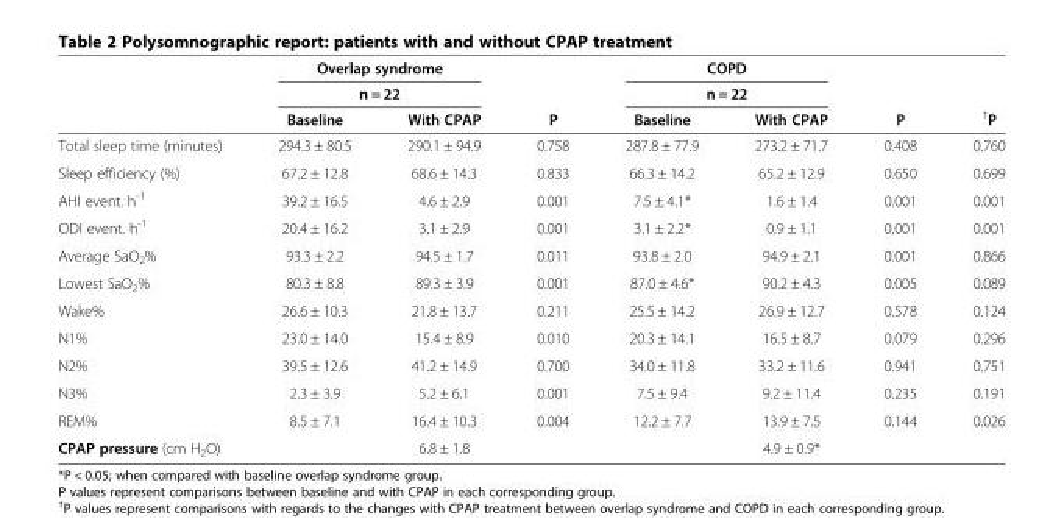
<table><thead><tr><td rowspan="3"></td><td rowspan="2" colspan="2">Overlap syndrome n = 22</td><td rowspan="3">P</td><td rowspan="2" colspan="2">COPD n = 22</td><td rowspan="3">P</td><td rowspan="3"><sup>†</sup>P</td></tr><tr></tr><tr><td>Baseline</td><td>With CPAP</td><td>Baseline</td><td>With CPAP</td></tr></thead><tbody><tr><td>Total sleep time (minutes)</td><td>294.3 ± 80.5</td><td>290.1 ± 94.9</td><td>0.758</td><td>287.8 ± 77.9</td><td>273.2 ± 71.7</td><td>0.408</td><td>0.760</td></tr><tr><td>Sleep efficiency (%)</td><td>67.2 ± 12.8</td><td>68.6 ± 14.3</td><td>0.833</td><td>66.3 ± 14.2</td><td>65.2 ± 12.9</td><td>0.650</td><td>0.699</td></tr><tr><td>AHI event. h<sup>-1</sup></td><td>39.2 ± 16.5</td><td>4.6 ± 2.9</td><td>0.001</td><td>7.5 ± 4.1*</td><td>1.6 ± 1.4</td><td>0.001</td><td>0.001</td></tr><tr><td>ODI event. h<sup>-1</sup></td><td>20.4 ± 16.2</td><td>3.1 ± 2.9</td><td>0.001</td><td>3.1 ± 2.2*</td><td>0.9 ± 1.1</td><td>0.001</td><td>0.001</td></tr><tr><td>Average SaO<sub>2</sub>%</td><td>93.3 ± 2.2</td><td>94.5 ± 1.7</td><td>0.011</td><td>93.8 ± 2.0</td><td>94.9 ± 2.1</td><td>0.001</td><td>0.866</td></tr><tr><td>Lowest SaO<sub>2</sub>%</td><td>80.3 ± 8.8</td><td>89.3 ± 3.9</td><td>0.001</td><td>87.0 ± 4.6*</td><td>90.2 ± 4.3</td><td>0.005</td><td>0.089</td></tr><tr><td>Wake%</td><td>26.6 ± 10.3</td><td>21.8 ± 13.7</td><td>0.211</td><td>25.5 ± 14.2</td><td>26.9 ± 12.7</td><td>0.578</td><td>0.124</td></tr><tr><td>N1%</td><td>23.0 ± 14.0</td><td>15.4 ± 8.9</td><td>0.010</td><td>20.3 ± 14.1</td><td>16.5 ± 8.7</td><td>0.079</td><td>0.296</td></tr><tr><td>N2%</td><td>39.5 ± 12.6</td><td>41.2 ± 14.9</td><td>0.700</td><td>34.0 ± 11.8</td><td>33.2 ± 11.6</td><td>0.941</td><td>0.751</td></tr><tr><td>N3%</td><td>2.3 ± 3.9</td><td>5.2 ± 6.1</td><td>0.001</td><td>7.5 ± 9.4</td><td>9.2 ± 11.4</td><td>0.235</td><td>0.191</td></tr><tr><td>REM%</td><td>8.5 ± 7.1</td><td>16.4 ± 10.3</td><td>0.004</td><td>12.2 ± 7.7</td><td>13.9 ± 7.5</td><td>0.144</td><td>0.026</td></tr><tr><td>CPAP pressure (cm H<sub>2</sub>O)</td><td></td><td>6.8 ± 1.8</td><td></td><td></td><td>4.9 ± 0.9*</td><td></td><td></td></tr></tbody></table>